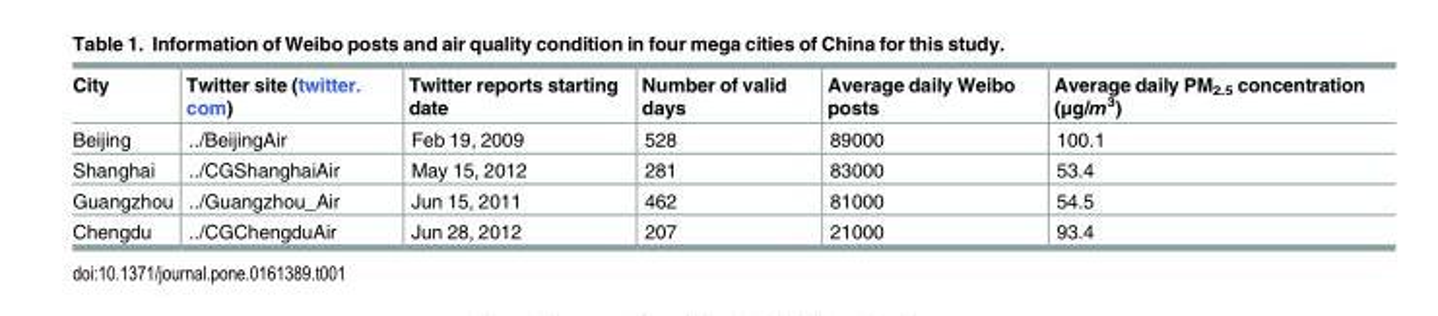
<table><thead><tr><td>City</td><td>Twitter site (twitter. com)</td><td>Twitter reports starting date</td><td>Number of valid days</td><td>Average daily Weibo posts</td><td>Average daily PM<sub>2.5</sub> concentration (μg/m<sup>3</sup>)</td></tr></thead><tbody><tr><td>Beijing</td><td>../BeijingAir</td><td>Feb 19, 2009</td><td>528</td><td>89000</td><td>100.1</td></tr><tr><td>Shanghai</td><td>../CGShanghaiAir</td><td>May 15, 2012</td><td>281</td><td>83000</td><td>53.4</td></tr><tr><td>Guangzhou</td><td>../Guangzhou_Air</td><td>Jun 15, 2011</td><td>462</td><td>81000</td><td>54.5</td></tr><tr><td>Chengdu</td><td>../CGChengduAir</td><td>Jun 28, 2012</td><td>207</td><td>21000</td><td>93.4</td></tr></tbody></table>